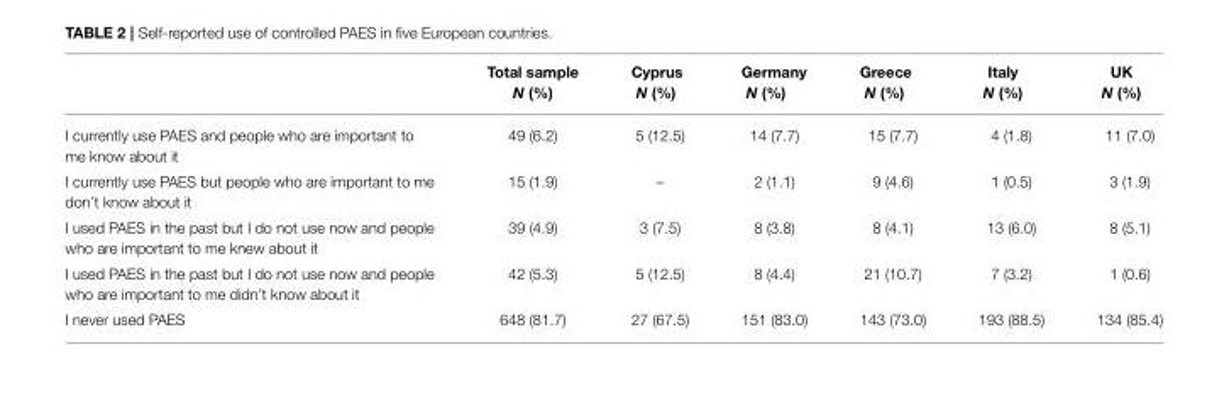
<table><thead><tr><td></td><td>Total sample N (%)</td><td>Cyprus N (%)</td><td>Germany N (%)</td><td>Greece N (%)</td><td>Italy N (%)</td><td>UK N (%)</td></tr></thead><tbody><tr><td>I currently use PAES and people who are important to me know about it</td><td>49 (6.2)</td><td>5 (12.5)</td><td>14 (7.7)</td><td>15 (7.7)</td><td>4 (1.8)</td><td>11 (7.0)</td></tr><tr><td>I currently use PAES but people who are important to me don’t know about it</td><td>15 (1.9)</td><td>–</td><td>2 (1.1)</td><td>9 (4.6)</td><td>1 (0.5)</td><td>3 (1.9)</td></tr><tr><td>I used PAES in the past but I do not use now and people who are important to me knew about it</td><td>39 (4.9)</td><td>3 (7.5)</td><td>8 (3.8)</td><td>8 (4.1)</td><td>13 (6.0)</td><td>8 (5.1)</td></tr><tr><td>I used PAES in the past but I do not use now and people who are important to me didn’t know about it</td><td>42 (5.3)</td><td>5 (12.5)</td><td>8 (4.4)</td><td>21 (10.7)</td><td>7 (3.2)</td><td>1 (0.6)</td></tr><tr><td>I never used PAES</td><td>648 (81.7)</td><td>27 (67.5)</td><td>151 (83.0)</td><td>143 (73.0)</td><td>193 (88.5)</td><td>134 (85.4)</td></tr></tbody></table>